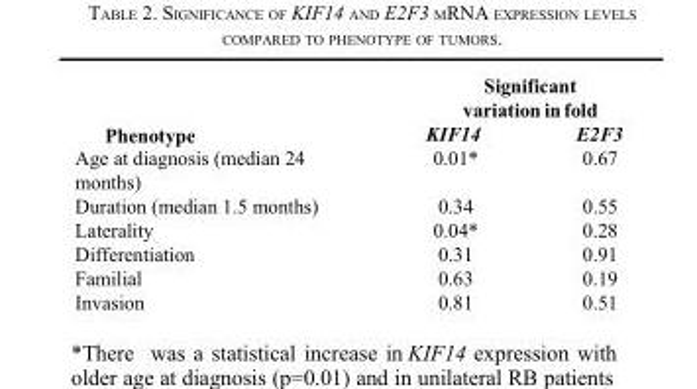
<table><thead><tr><td rowspan="2">Phenotype</td><td colspan="2">Significant variation in fold</td></tr><tr><td>KIF14</td><td>E2F3</td></tr></thead><tbody><tr><td>Age at diagnosis (median 24 months)</td><td>0.01*</td><td>0.67</td></tr><tr><td>Duration (median 1.5 months)</td><td>0.34</td><td>0.55</td></tr><tr><td>Laterality</td><td>0.04*</td><td>0.28</td></tr><tr><td>Differentiation</td><td>0.31</td><td>0.91</td></tr><tr><td>Familial</td><td>0.63</td><td>0.19</td></tr><tr><td>Invasion</td><td>0.81</td><td>0.51</td></tr></tbody></table>